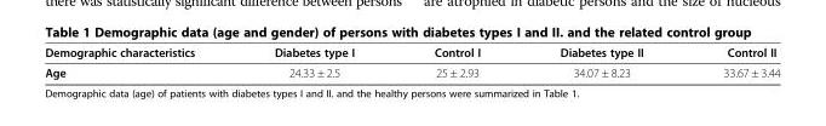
<table><thead><tr><td>Demographic characteristics</td><td>Diabetes type I</td><td>Control I</td><td>Diabetes type II</td><td>Control II</td></tr></thead><tbody><tr><td>Age</td><td>24.33 ± 2.5</td><td>25 ± 2.93</td><td>34.07 ± 8.23</td><td>33.67 ± 3.44</td></tr></tbody></table>